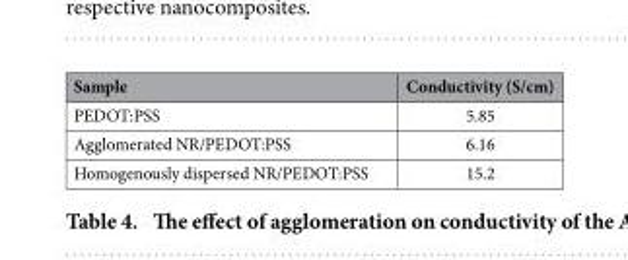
<table><thead><tr><td>Sample</td><td>Conductivity (S/cm)</td></tr></thead><tbody><tr><td>PEDOT:PSS</td><td>5.85</td></tr><tr><td>Agglomerated NR/PEDOT:PSS</td><td>6.16</td></tr><tr><td>Homogenously dispersed NR/PEDOT:PSS</td><td>15.2</td></tr></tbody></table>